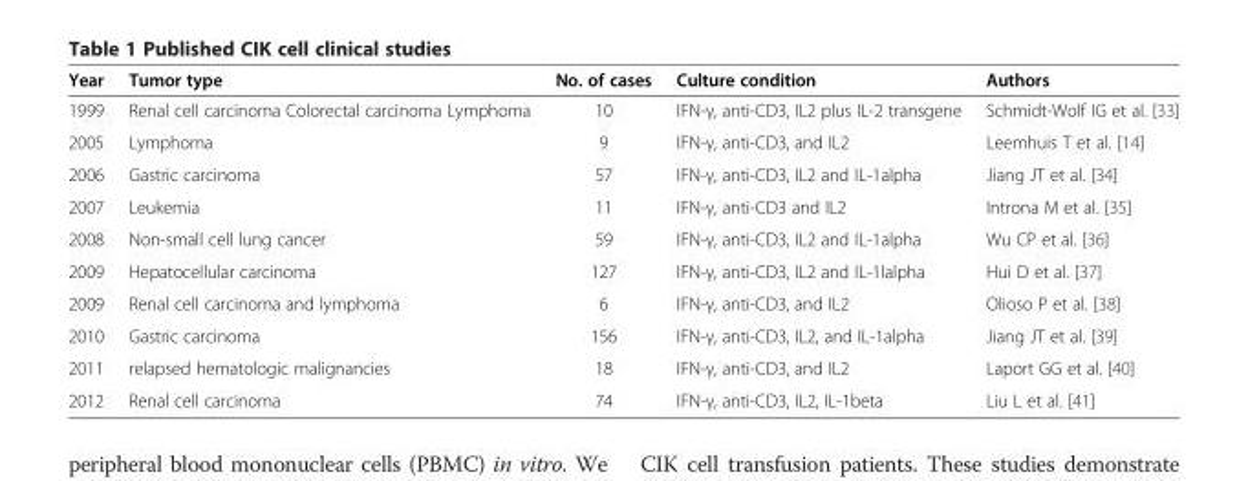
<table><thead><tr><td>Year</td><td>Tumor type</td><td>No. of cases</td><td>Culture condition</td><td>Authors</td></tr></thead><tbody><tr><td>1999</td><td>Renal cell carcinoma Colorectal carcinoma Lymphoma</td><td>10</td><td>IFN-γ, anti-CD3, IL2 plus IL-2 transgene</td><td>Schmidt-Wolf IG et al. [33]</td></tr><tr><td>2005</td><td>Lymphoma</td><td>9</td><td>IFN-γ, anti-CD3, and IL2</td><td>Leemhuis T et al. [14]</td></tr><tr><td>2006</td><td>Gastric carcinoma</td><td>57</td><td>IFN-γ, anti-CD3, IL2 and IL-1alpha</td><td>Jiang JT et al. [34]</td></tr><tr><td>2007</td><td>Leukemia</td><td>11</td><td>IFN-γ, anti-CD3 and IL2</td><td>Introna M et al. [35]</td></tr><tr><td>2008</td><td>Non-small cell lung cancer</td><td>59</td><td>IFN-γ, anti-CD3, IL2 and IL-1alpha</td><td>Wu CP et al. [36]</td></tr><tr><td>2009</td><td>Hepatocellular carcinoma</td><td>127</td><td>IFN-γ, anti-CD3, IL2 and IL-1lalpha</td><td>Hui D et al. [37]</td></tr><tr><td>2009</td><td>Renal cell carcinoma and lymphoma</td><td>6</td><td>IFN-γ, anti-CD3, and IL2</td><td>Olioso P et al. [38]</td></tr><tr><td>2010</td><td>Gastric carcinoma</td><td>156</td><td>IFN-γ, anti-CD3, IL2, and IL-1alpha</td><td>Jiang JT et al. [39]</td></tr><tr><td>2011</td><td>relapsed hematologic malignancies</td><td>18</td><td>IFN-γ, anti-CD3, and IL2</td><td>Laport GG et al. [40]</td></tr><tr><td>2012</td><td>Renal cell carcinoma</td><td>74</td><td>IFN-γ, anti-CD3, IL2, IL-1beta</td><td>Liu L et al. [41]</td></tr></tbody></table>